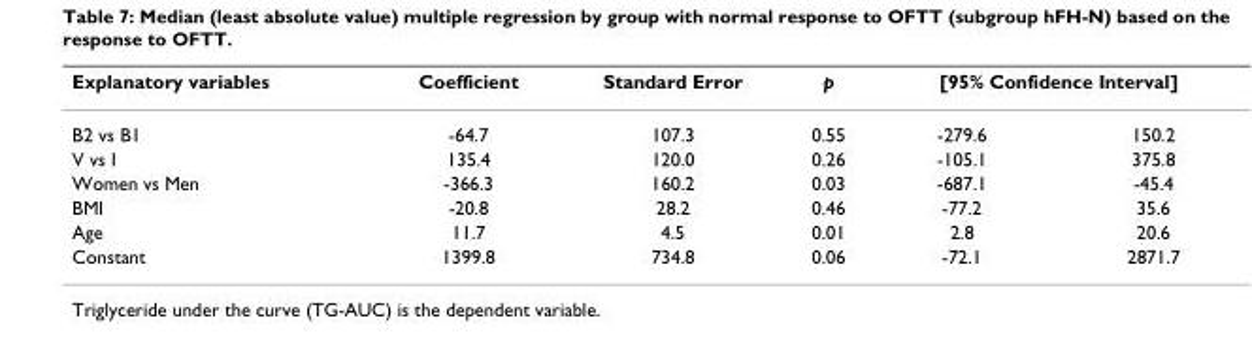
<table><thead><tr><td rowspan="2">Explanatory variables B2 vs B1</td><td rowspan="2">Coefficient -64.7</td><td rowspan="2">Standard Error 107.3</td><td rowspan="2">p 0.55</td><td colspan="2">[95% Confidence Interval]</td></tr><tr><td>-279.6</td><td>150.2</td></tr></thead><tbody><tr><td>V vs I</td><td>135.4</td><td>120.0</td><td>0.26</td><td>-105.1</td><td>375.8</td></tr><tr><td>Women vs Men</td><td>-366.3</td><td>160.2</td><td>0.03</td><td>-687.1</td><td>-45.4</td></tr><tr><td>BMI</td><td>-20.8</td><td>28.2</td><td>0.46</td><td>-77.2</td><td>35.6</td></tr><tr><td>Age</td><td>11.7</td><td>4.5</td><td>0.01</td><td>2.8</td><td>20.6</td></tr><tr><td>Constant</td><td>1399.8</td><td>734.8</td><td>0.06</td><td>-72.1</td><td>2871.7</td></tr></tbody></table>